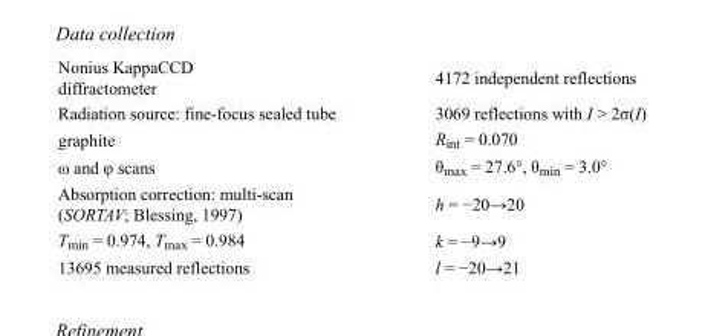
<table><tbody><tr><td>Nonius KappaCCD diffractometer</td><td>4172 independent reflections</td></tr><tr><td>Radiation source: fine-focus sealed tube</td><td>3069 reflections with I &gt; 2σ(I)</td></tr><tr><td>graphite</td><td>R<sub>int</sub> = 0.070</td></tr><tr><td>ω and φ scans</td><td>θ<sub>max</sub> = 27.6°, θ<sub>min</sub> = 3.0°</td></tr><tr><td>Absorption correction: multi-scan (SORTAV; Blessing, 1997)</td><td>h = −20→20</td></tr><tr><td>T<sub>min</sub> = 0.974, T<sub>max</sub> = 0.984</td><td>k = −9→9</td></tr><tr><td>13695 measured reflections</td><td>l = −20→21</td></tr></tbody></table>